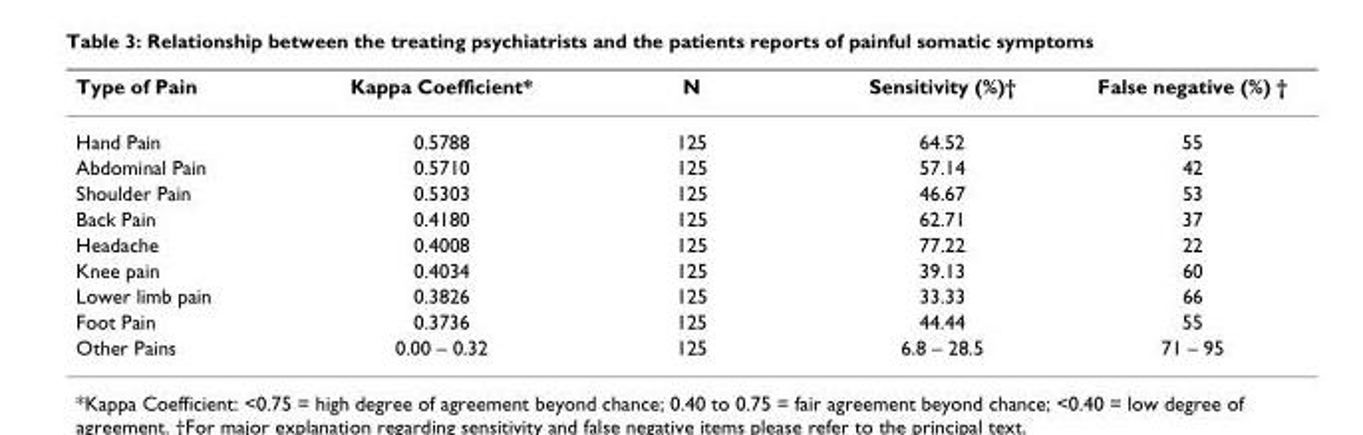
<table><thead><tr><td>Type of Pain</td><td>Kappa Coefficient*</td><td>N</td><td>Sensitivity (%)†</td><td>False negative (%) †</td></tr></thead><tbody><tr><td>Hand Pain</td><td>0.5788</td><td>125</td><td>64.52</td><td>55</td></tr><tr><td>Abdominal Pain</td><td>0.5710</td><td>125</td><td>57.14</td><td>42</td></tr><tr><td>Shoulder Pain</td><td>0.5303</td><td>125</td><td>46.67</td><td>53</td></tr><tr><td>Back Pain</td><td>0.4180</td><td>125</td><td>62.71</td><td>37</td></tr><tr><td>Headache</td><td>0.4008</td><td>125</td><td>77.22</td><td>22</td></tr><tr><td>Knee pain</td><td>0.4034</td><td>125</td><td>39.13</td><td>60</td></tr><tr><td>Lower limb pain</td><td>0.3826</td><td>125</td><td>33.33</td><td>66</td></tr><tr><td>Foot Pain</td><td>0.3736</td><td>125</td><td>44.44</td><td>55</td></tr><tr><td>Other Pains</td><td>0.00 – 0.32</td><td>125</td><td>6.8 – 28.5</td><td>71 – 95</td></tr></tbody></table>